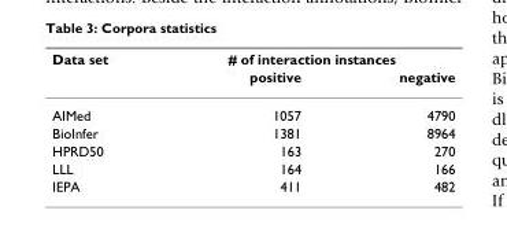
<table><thead><tr><td rowspan="2">Data set</td><td colspan="2"># of interaction instances</td></tr><tr><td>positive</td><td>negative</td></tr></thead><tbody><tr><td>AIMed</td><td>1057</td><td>4790</td></tr><tr><td>BioInfer</td><td>1381</td><td>8964</td></tr><tr><td>HPRD50</td><td>163</td><td>270</td></tr><tr><td>LLL</td><td>164</td><td>166</td></tr><tr><td>IEPA</td><td>411</td><td>482</td></tr></tbody></table>